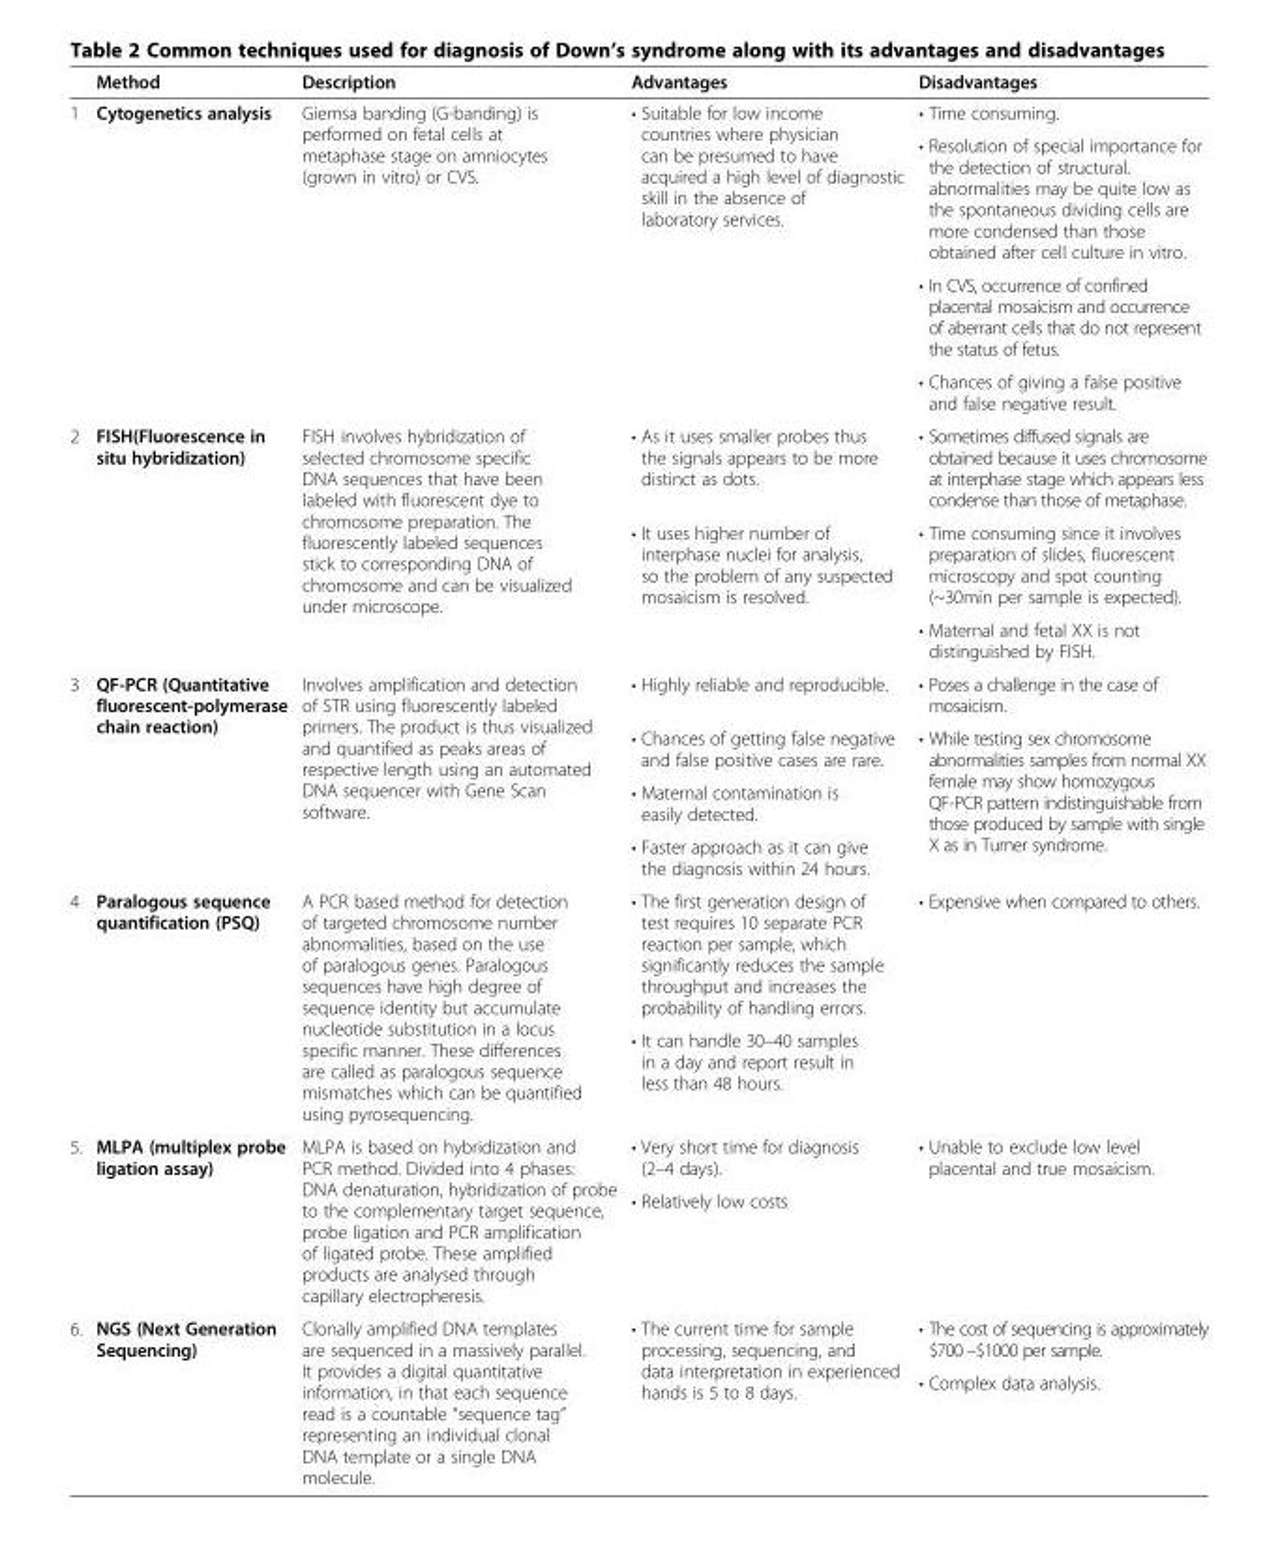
<table><thead><tr><td></td><td>Method</td><td>Description</td><td>Advantages</td><td>Disadvantages</td></tr></thead><tbody><tr><td rowspan="4">1</td><td rowspan="4">Cytogenetics analysis</td><td rowspan="4">Giemsa banding (G-banding) is performed on fetal cells at metaphase stage on amniocytes (grown in vitro) or CVS.</td><td rowspan="4">• Suitable for low income countries where physician can be presumed to have acquired a high level of diagnostic skill in the absence of laboratory services.</td><td>• Time consuming.</td></tr><tr><td>• Resolution of special importance for the detection of structural. abnormalities may be quite low as the spontaneous dividing cells are more condensed than those obtained after cell culture in vitro.</td></tr><tr><td>• In CVS, occurrence of confined placental mosaicism and occurrence of aberrant cells that do not represent the status of fetus.</td></tr><tr><td>• Chances of giving a false positive and false negative result.</td></tr><tr><td rowspan="3">2</td><td rowspan="3">FISH(Fluorescence in situ hybridization)</td><td rowspan="3">FISH involves hybridization of selected chromosome specific DNA sequences that have been labeled with fluorescent dye to chromosome preparation. The fluorescently labeled sequences stick to corresponding DNA of chromosome and can be visualized under microscope.</td><td>• As it uses smaller probes thus the signals appears to be more distinct as dots.</td><td>• Sometimes diffused signals are obtained because it uses chromosome at interphase stage which appears less condense than those of metaphase.</td></tr><tr><td rowspan="2">• It uses higher number of interphase nuclei for analysis, so the problem of any suspected mosaicism is resolved.</td><td>• Time consuming since it involves preparation of slides, fluorescent microscopy and spot counting (~30min per sample is expected).</td></tr><tr><td>• Maternal and fetal XX is not distinguished by FISH.</td></tr><tr><td rowspan="4">3</td><td rowspan="4">QF-PCR (Quantitative fluorescent-polymerase chain reaction)</td><td rowspan="4">Involves amplification and detection of STR using fluorescently labeled primers. The product is thus visualized and quantified as peaks areas of respective length using an automated DNA sequencer with Gene Scan software.</td><td>• Highly reliable and reproducible.</td><td>• Poses a challenge in the case of mosaicism.</td></tr><tr><td>• Chances of getting false negative and false positive cases are rare.</td><td rowspan="3">• While testing sex chromosome abnormalities samples from normal XX female may show homozygous QF-PCR pattern indistinguishable from those produced by sample with single X as in Turner syndrome.</td></tr><tr><td>• Maternal contamination is easily detected.</td></tr><tr><td>• Faster approach as it can give the diagnosis within 24 hours.</td></tr><tr><td rowspan="2">4</td><td rowspan="2">Paralogous sequence quantification (PSQ)</td><td rowspan="2">A PCR based method for detection of targeted chromosome number abnormalities, based on the use of paralogous genes. Paralogous sequences have high degree of sequence identity but accumulate nucleotide substitution in a locus specific manner. These differences are called as paralogous sequence mismatches which can be quantified using pyrosequencing.</td><td>• The first generation design of test requires 10 separate PCR reaction per sample, which significantly reduces the sample throughput and increases the probability of handling errors.</td><td rowspan="2">• Expensive when compared to others.</td></tr><tr><td>• It can handle 30–40 samples in a day and report result in less than 48 hours.</td></tr><tr><td rowspan="2">5.</td><td rowspan="2">MLPA (multiplex probe ligation assay)</td><td rowspan="2">MLPA is based on hybridization and PCR method. Divided into 4 phases: DNA denaturation, hybridization of probe to the complementary target sequence, probe ligation and PCR amplification of ligated probe. These amplified products are analysed through capillary electropheresis.</td><td>• Very short time for diagnosis (2–4 days).</td><td rowspan="2">• Unable to exclude low level placental and true mosaicism.</td></tr><tr><td>• Relatively low costs</td></tr><tr><td rowspan="2">6.</td><td rowspan="2">NGS (Next Generation Sequencing)</td><td rowspan="2">Clonally amplified DNA templates are sequenced in a massively parallel. It provides a digital quantitative information, in that each sequence read is a countable “sequence tag” representing an individual clonal DNA template or a single DNA molecule.</td><td rowspan="2">• The current time for sample processing, sequencing, and data interpretation in experienced hands is 5 to 8 days.</td><td>• The cost of sequencing is approximately $700 –$1000 per sample.</td></tr><tr><td>• Complex data analysis.</td></tr></tbody></table>